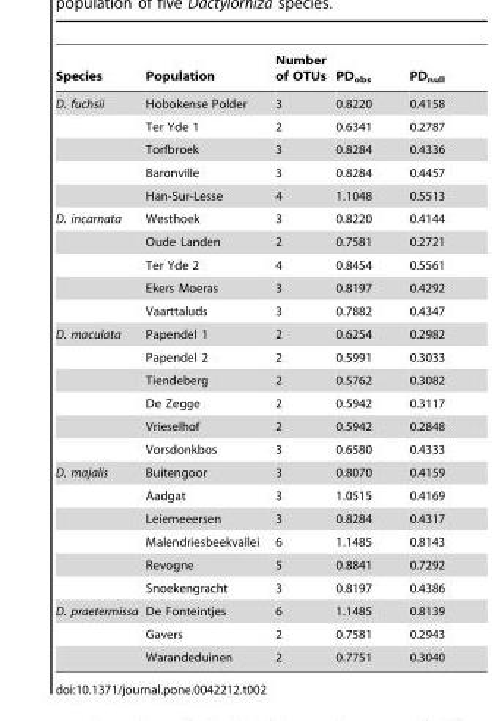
<table><thead><tr><td>Species</td><td>Population</td><td>Number of OTUs</td><td>PD<sub>obs</sub></td><td>PD<sub>null</sub></td></tr></thead><tbody><tr><td rowspan="5">D. fuchsii</td><td>Hobokense Polder</td><td>3</td><td>0.8220</td><td>0.4158</td></tr><tr><td>Ter Yde 1</td><td>2</td><td>0.6341</td><td>0.2787</td></tr><tr><td>Torfbroek</td><td>3</td><td>0.8284</td><td>0.4336</td></tr><tr><td>Baronville</td><td>3</td><td>0.8284</td><td>0.4457</td></tr><tr><td>Han-Sur-Lesse</td><td>4</td><td>1.1048</td><td>0.5513</td></tr><tr><td rowspan="5">D. incarnata</td><td>Westhoek</td><td>3</td><td>0.8220</td><td>0.4144</td></tr><tr><td>Oude Landen</td><td>2</td><td>0.7581</td><td>0.2721</td></tr><tr><td>Ter Yde 2</td><td>4</td><td>0.8454</td><td>0.5561</td></tr><tr><td>Ekers Moeras</td><td>3</td><td>0.8197</td><td>0.4292</td></tr><tr><td>Vaarttaluds</td><td>3</td><td>0.7882</td><td>0.4347</td></tr><tr><td rowspan="6">D. maculata</td><td>Papendel 1</td><td>2</td><td>0.6254</td><td>0.2982</td></tr><tr><td>Papendel 2</td><td>2</td><td>0.5991</td><td>0.3033</td></tr><tr><td>Tiendeberg</td><td>2</td><td>0.5762</td><td>0.3082</td></tr><tr><td>De Zegge</td><td>2</td><td>0.5942</td><td>0.3117</td></tr><tr><td>Vrieselhof</td><td>2</td><td>0.5942</td><td>0.2848</td></tr><tr><td>Vorsdonkbos</td><td>3</td><td>0.6580</td><td>0.4333</td></tr><tr><td rowspan="6">D. majalis</td><td>Buitengoor</td><td>3</td><td>0.8070</td><td>0.4159</td></tr><tr><td>Aadgat</td><td>3</td><td>1.0515</td><td>0.4169</td></tr><tr><td>Leiemeeersen</td><td>3</td><td>0.8284</td><td>0.4317</td></tr><tr><td>Malendriesbeekvallei</td><td>6</td><td>1.1485</td><td>0.8143</td></tr><tr><td>Revogne</td><td>5</td><td>0.8841</td><td>0.7292</td></tr><tr><td>Snoekengracht</td><td>3</td><td>0.8197</td><td>0.4386</td></tr><tr><td rowspan="3">D. praetermissa</td><td>De Fonteintjes</td><td>6</td><td>1.1485</td><td>0.8139</td></tr><tr><td>Gavers</td><td>2</td><td>0.7581</td><td>0.2943</td></tr><tr><td>Warandeduinen</td><td>2</td><td>0.7751</td><td>0.3040</td></tr></tbody></table>